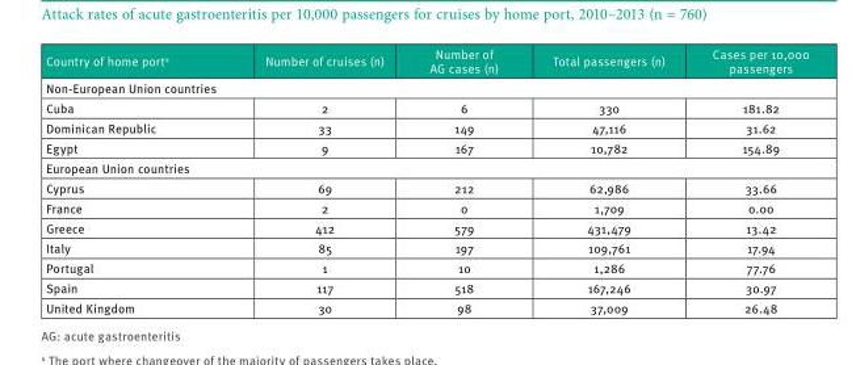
<table><thead><tr><td>Country of home port<sup>a</sup></td><td>Number of cruises (n)</td><td>Number of AG cases (n)</td><td>Total passengers (n)</td><td>Cases per 10,000 passengers</td></tr></thead><tbody><tr><td colspan="5">Non-European Union countries</td></tr><tr><td>Cuba</td><td>2</td><td>6</td><td>330</td><td>181.82</td></tr><tr><td>Dominican Republic</td><td>33</td><td>149</td><td>47,116</td><td>31.62</td></tr><tr><td>Egypt</td><td>9</td><td>167</td><td>10,782</td><td>154.89</td></tr><tr><td colspan="5">European Union countries</td></tr><tr><td>Cyprus</td><td>69</td><td>212</td><td>62,986</td><td>33.66</td></tr><tr><td>France</td><td>2</td><td>0</td><td>1,709</td><td>0.00</td></tr><tr><td>Greece</td><td>412</td><td>579</td><td>431,479</td><td>13.42</td></tr><tr><td>Italy</td><td>85</td><td>197</td><td>109,761</td><td>17.94</td></tr><tr><td>Portugal</td><td>1</td><td>10</td><td>1,286</td><td>77.76</td></tr><tr><td>Spain</td><td>117</td><td>518</td><td>167,246</td><td>30.97</td></tr><tr><td>United Kingdom</td><td>30</td><td>98</td><td>37,009</td><td>26.48</td></tr></tbody></table>